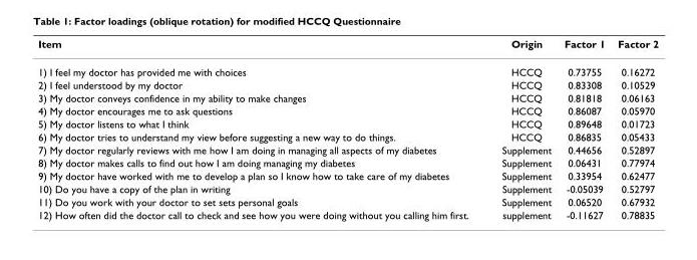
<table><thead><tr><td>Item</td><td>Origin</td><td>Factor 1</td><td>Factor 2</td></tr></thead><tbody><tr><td>1) I feel my doctor has provided me with choices</td><td>HCCQ</td><td>0.73755</td><td>0.16272</td></tr><tr><td>2) I feel understood by my doctor</td><td>HCCQ</td><td>0.83308</td><td>0.10529</td></tr><tr><td>3) My doctor conveys confidence in my ability to make changes</td><td>HCCQ</td><td>0.81818</td><td>0.06163</td></tr><tr><td>4) My doctor encourages me to ask questions</td><td>HCCQ</td><td>0.86087</td><td>0.05970</td></tr><tr><td>5) My doctor listens to what I think</td><td>HCCQ</td><td>0.89648</td><td>0.01723</td></tr><tr><td>6) My doctor tries to understand my view before suggesting a new way to do things.</td><td>HCCQ</td><td>0.86835</td><td>0.05433</td></tr><tr><td>7) My doctor regularly reviews with me how I am doing in managing all aspects of my diabetes</td><td>Supplement</td><td>0.44656</td><td>0.52897</td></tr><tr><td>8) My doctor makes calls to find out how I am doing managing my diabetes</td><td>Supplement</td><td>0.06431</td><td>0.77974</td></tr><tr><td>9) My doctor have worked with me to develop a plan so I know how to take care of my diabetes</td><td>Supplement</td><td>0.33954</td><td>0.62477</td></tr><tr><td>10) Do you have a copy of the plan in writing</td><td>Supplement</td><td>-0.05039</td><td>0.52797</td></tr><tr><td>11) Do you work with your doctor to set sets personal goals</td><td>Supplement</td><td>0.06520</td><td>0.67932</td></tr><tr><td>12) How often did the doctor call to check and see how you were doing without you calling him first.</td><td>supplement</td><td>-0.11627</td><td>0.78835</td></tr></tbody></table>